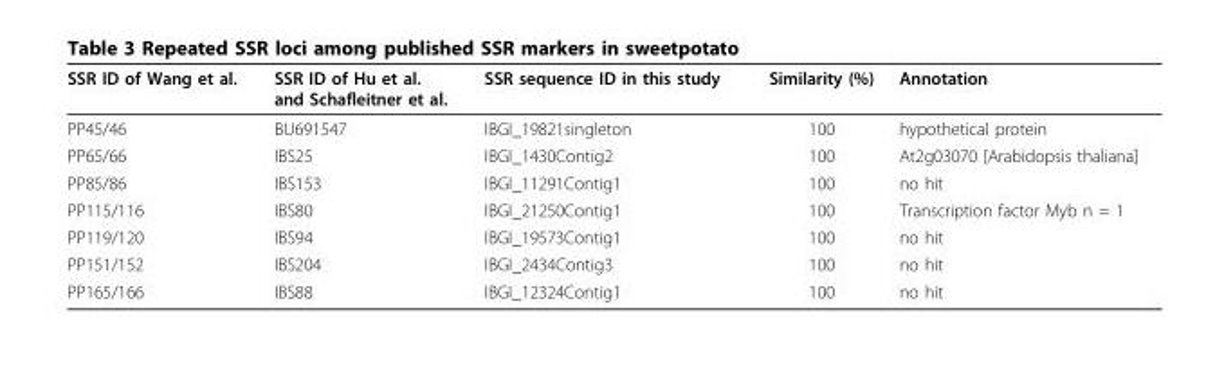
<table><thead><tr><td>SSR ID of Wang et al.</td><td>SSR ID of Hu et al. and Schafleitner et al.</td><td>SSR sequence ID in this study</td><td>Similarity (%)</td><td>Annotation</td></tr></thead><tbody><tr><td>PP45/46</td><td>BU691547</td><td>IBGI_19821singleton</td><td>100</td><td>hypothetical protein</td></tr><tr><td>PP65/66</td><td>IBS25</td><td>IBGI_1430Contig2</td><td>100</td><td>At2g03070 [Arabidopsis thaliana]</td></tr><tr><td>PP85/86</td><td>IBS153</td><td>IBGI_11291Contig1</td><td>100</td><td>no hit</td></tr><tr><td>PP115/116</td><td>IBS80</td><td>IBGI_21250Contig1</td><td>100</td><td>Transcription factor Myb n = 1</td></tr><tr><td>PP119/120</td><td>IBS94</td><td>IBGI_19573Contig1</td><td>100</td><td>no hit</td></tr><tr><td>PP151/152</td><td>IBS204</td><td>IBGI_2434Contig3</td><td>100</td><td>no hit</td></tr><tr><td>PP165/166</td><td>IBS88</td><td>IBGI_12324Contig1</td><td>100</td><td>no hit</td></tr></tbody></table>